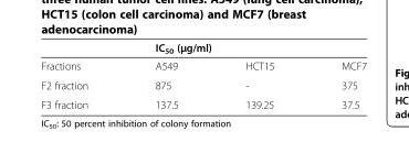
<table><thead><tr><td rowspan="2">Fractions</td><td colspan="3">IC<sub>50</sub> (μg/ml)</td></tr><tr><td>A549</td><td>HCT15</td><td>MCF7</td></tr></thead><tbody><tr><td>F2 fraction</td><td>875</td><td>-</td><td>375</td></tr><tr><td>F3 fraction</td><td>137.5</td><td>139.25</td><td>37.5</td></tr></tbody></table>